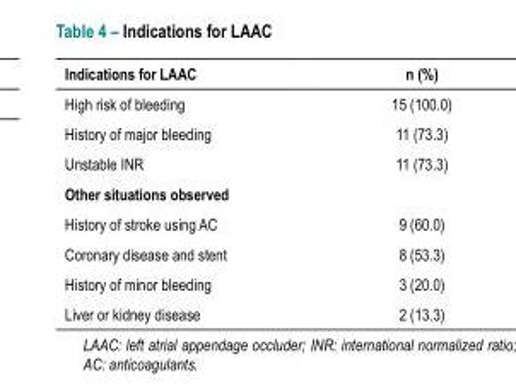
<table><thead><tr><td>Indications for LAAC</td><td>n (%)</td></tr></thead><tbody><tr><td>High risk of bleeding</td><td>15 (100.0)</td></tr><tr><td>History of major bleeding</td><td>11 (73.3)</td></tr><tr><td>Unstable INR</td><td>11 (73.3)</td></tr><tr><td colspan="2">Other situations observed</td></tr><tr><td>History of stroke using AC</td><td>9 (60.0)</td></tr><tr><td>Coronary disease and stent</td><td>8 (53.3)</td></tr><tr><td>History of minor bleeding</td><td>3 (20.0)</td></tr><tr><td>Liver or kidney disease</td><td>2 (13.3)</td></tr></tbody></table>